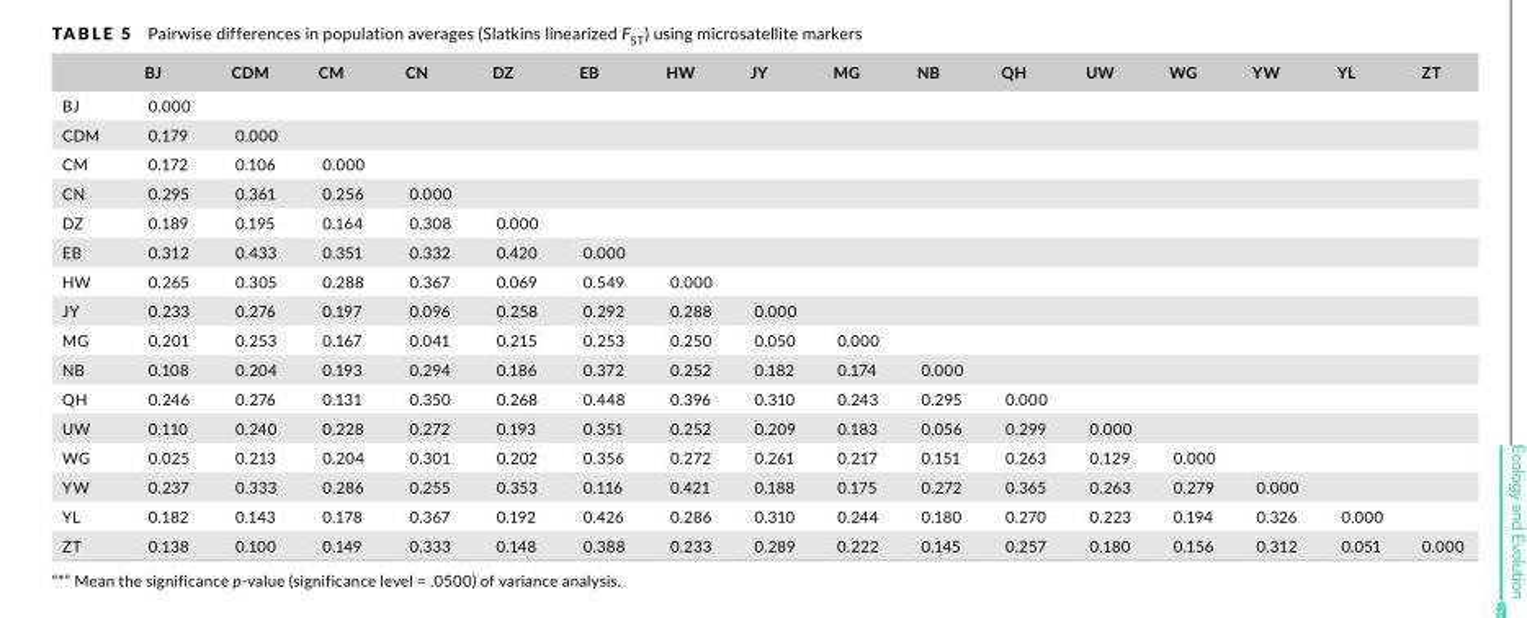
<table><thead><tr><td></td><td>BJ</td><td>CDM</td><td>CM</td><td>CN</td><td>DZ</td><td>EB</td><td>HW</td><td>JY</td><td>MG</td><td>NB</td><td>QH</td><td>UW</td><td>WG</td><td>YW</td><td>YL</td><td>ZT</td></tr></thead><tbody><tr><td>BJ</td><td>0.000</td><td></td><td></td><td></td><td></td><td></td><td></td><td></td><td></td><td></td><td></td><td></td><td></td><td></td><td></td><td></td></tr><tr><td>CDM</td><td>0.179</td><td>0.000</td><td></td><td></td><td></td><td></td><td></td><td></td><td></td><td></td><td></td><td></td><td></td><td></td><td></td><td></td></tr><tr><td>CM</td><td>0.172</td><td>0.106</td><td>0.000</td><td></td><td></td><td></td><td></td><td></td><td></td><td></td><td></td><td></td><td></td><td></td><td></td><td></td></tr><tr><td>CN</td><td>0.295</td><td>0.361</td><td>0.256</td><td>0.000</td><td></td><td></td><td></td><td></td><td></td><td></td><td></td><td></td><td></td><td></td><td></td><td></td></tr><tr><td>DZ</td><td>0.189</td><td>0.195</td><td>0.164</td><td>0.308</td><td>0.000</td><td></td><td></td><td></td><td></td><td></td><td></td><td></td><td></td><td></td><td></td><td></td></tr><tr><td>EB</td><td>0.312</td><td>0.433</td><td>0.351</td><td>0.332</td><td>0.420</td><td>0.000</td><td></td><td></td><td></td><td></td><td></td><td></td><td></td><td></td><td></td><td></td></tr><tr><td>HW</td><td>0.265</td><td>0.305</td><td>0.288</td><td>0.367</td><td>0.069</td><td>0.549</td><td>0.000</td><td></td><td></td><td></td><td></td><td></td><td></td><td></td><td></td><td></td></tr><tr><td>JY</td><td>0.233</td><td>0.276</td><td>0.197</td><td>0.096</td><td>0.258</td><td>0.292</td><td>0.288</td><td>0.000</td><td></td><td></td><td></td><td></td><td></td><td></td><td></td><td></td></tr><tr><td>MG</td><td>0.201</td><td>0.253</td><td>0.167</td><td>0.041</td><td>0.215</td><td>0.253</td><td>0.250</td><td>0.050</td><td>0.000</td><td></td><td></td><td></td><td></td><td></td><td></td><td></td></tr><tr><td>NB</td><td>0.108</td><td>0.204</td><td>0.193</td><td>0.294</td><td>0.186</td><td>0.372</td><td>0.252</td><td>0.182</td><td>0.174</td><td>0.000</td><td></td><td></td><td></td><td></td><td></td><td></td></tr><tr><td>QH</td><td>0.246</td><td>0.276</td><td>0.131</td><td>0.350</td><td>0.268</td><td>0.448</td><td>0.396</td><td>0.310</td><td>0.243</td><td>0.295</td><td>0.000</td><td></td><td></td><td></td><td></td><td></td></tr><tr><td>UW</td><td>0.110</td><td>0.240</td><td>0.228</td><td>0.272</td><td>0.193</td><td>0.351</td><td>0.252</td><td>0.209</td><td>0.183</td><td>0.056</td><td>0.299</td><td>0.000</td><td></td><td></td><td></td><td></td></tr><tr><td>WG</td><td>0.025</td><td>0.213</td><td>0.204</td><td>0.301</td><td>0.202</td><td>0.356</td><td>0.272</td><td>0.261</td><td>0.217</td><td>0.151</td><td>0.263</td><td>0.129</td><td>0.000</td><td></td><td></td><td></td></tr><tr><td>YW</td><td>0.237</td><td>0.333</td><td>0.286</td><td>0.255</td><td>0.353</td><td>0.116</td><td>0.421</td><td>0.188</td><td>0.175</td><td>0.272</td><td>0.365</td><td>0.263</td><td>0.279</td><td>0.000</td><td></td><td></td></tr><tr><td>YL</td><td>0.182</td><td>0.143</td><td>0.178</td><td>0.367</td><td>0.192</td><td>0.426</td><td>0.286</td><td>0.310</td><td>0.244</td><td>0.180</td><td>0.270</td><td>0.223</td><td>0.194</td><td>0.326</td><td>0.000</td><td></td></tr><tr><td>ZT</td><td>0.138</td><td>0.100</td><td>0.149</td><td>0.333</td><td>0.148</td><td>0.388</td><td>0.233</td><td>0.289</td><td>0.222</td><td>0.145</td><td>0.257</td><td>0.180</td><td>0.156</td><td>0.312</td><td>0.051</td><td>0.000</td></tr></tbody></table>